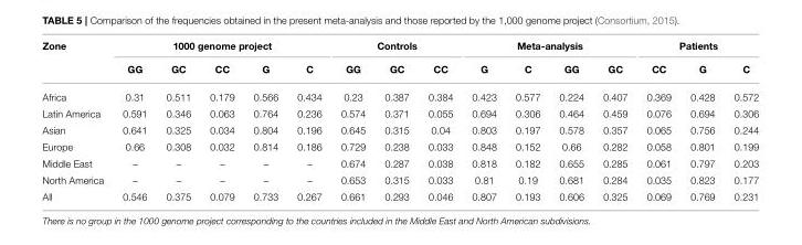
<table><thead><tr><td rowspan="2">Zone</td><td colspan="5">1000 genome project</td><td colspan="3">Controls</td><td colspan="4">Meta-analysis</td><td colspan="3">Patients</td></tr><tr><td>GG</td><td>GC</td><td>CC</td><td>G</td><td>C</td><td>GG</td><td>GC</td><td>CC</td><td>G</td><td>C</td><td>GG</td><td>GC</td><td>CC</td><td>G</td><td>C</td></tr></thead><tbody><tr><td>Africa</td><td>0.31</td><td>0.511</td><td>0.179</td><td>0.566</td><td>0.434</td><td>0.23</td><td>0.387</td><td>0.384</td><td>0.423</td><td>0.577</td><td>0.224</td><td>0.407</td><td>0.369</td><td>0.428</td><td>0.572</td></tr><tr><td>Latin America</td><td>0.591</td><td>0.346</td><td>0.063</td><td>0.764</td><td>0.236</td><td>0.574</td><td>0.371</td><td>0.055</td><td>0.694</td><td>0.306</td><td>0.464</td><td>0.459</td><td>0.076</td><td>0.694</td><td>0.306</td></tr><tr><td>Asian</td><td>0.641</td><td>0.325</td><td>0.034</td><td>0.804</td><td>0.196</td><td>0.645</td><td>0.315</td><td>0.04</td><td>0.803</td><td>0.197</td><td>0.578</td><td>0.357</td><td>0.065</td><td>0.756</td><td>0.244</td></tr><tr><td>Europe</td><td>0.66</td><td>0.308</td><td>0.032</td><td>0.814</td><td>0.186</td><td>0.729</td><td>0.238</td><td>0.033</td><td>0.848</td><td>0.152</td><td>0.66</td><td>0.282</td><td>0.058</td><td>0.801</td><td>0.199</td></tr><tr><td>Middle East</td><td>–</td><td>–</td><td>–</td><td>–</td><td>–</td><td>0.674</td><td>0.287</td><td>0.038</td><td>0.818</td><td>0.182</td><td>0.655</td><td>0.285</td><td>0.061</td><td>0.797</td><td>0.203</td></tr><tr><td>North America</td><td>–</td><td>–</td><td>–</td><td>–</td><td>–</td><td>0.653</td><td>0.315</td><td>0.033</td><td>0.81</td><td>0.19</td><td>0.681</td><td>0.284</td><td>0.035</td><td>0.823</td><td>0.177</td></tr><tr><td>All</td><td>0.546</td><td>0.375</td><td>0.079</td><td>0.733</td><td>0.267</td><td>0.661</td><td>0.293</td><td>0.046</td><td>0.807</td><td>0.193</td><td>0.606</td><td>0.325</td><td>0.069</td><td>0.769</td><td>0.231</td></tr></tbody></table>